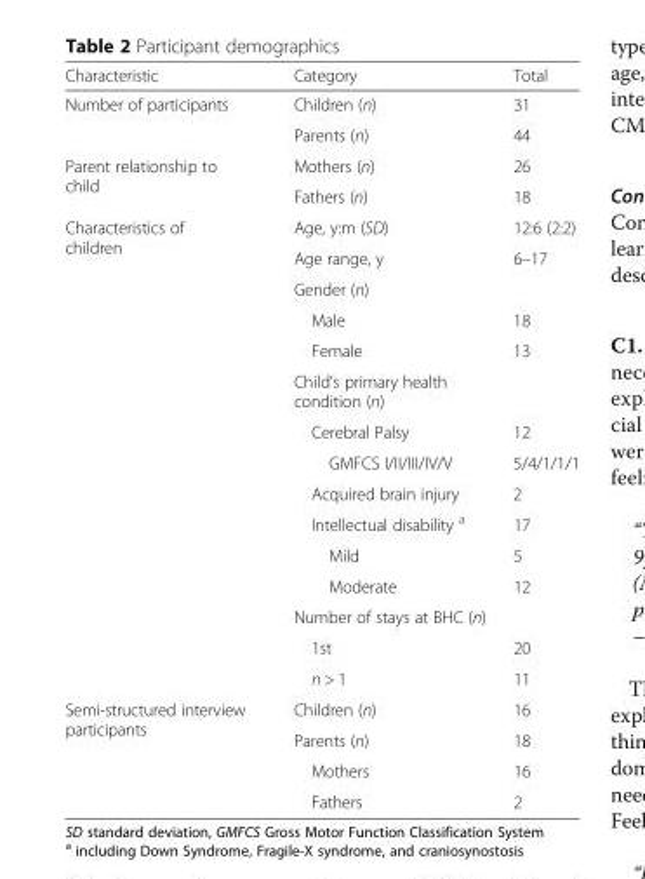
<table><thead><tr><td>Characteristic</td><td>Category</td><td>Total</td></tr></thead><tbody><tr><td rowspan="2">Number of participants</td><td>Children (n)</td><td>31</td></tr><tr><td>Parents (n)</td><td>44</td></tr><tr><td rowspan="2">Parent relationship to child</td><td>Mothers (n)</td><td>26</td></tr><tr><td>Fathers (n)</td><td>18</td></tr><tr><td rowspan="15">Characteristics of children</td><td>Age, y:m (SD)</td><td>12:6 (2:2)</td></tr><tr><td>Age range, y</td><td>6–17</td></tr><tr><td colspan="2">Gender (n)</td></tr><tr><td>Male</td><td>18</td></tr><tr><td>Female</td><td>13</td></tr><tr><td colspan="2">Child’s primary health condition (n)</td></tr><tr><td>Cerebral Palsy</td><td>12</td></tr><tr><td>GMFCS I/II/III/IV/V</td><td>5/4/1/1/1</td></tr><tr><td>Acquired brain injury</td><td>2</td></tr><tr><td>Intellectual disability <sup>a</sup></td><td>17</td></tr><tr><td>Mild</td><td>5</td></tr><tr><td>Moderate</td><td>12</td></tr><tr><td colspan="2">Number of stays at BHC (n)</td></tr><tr><td>1st</td><td>20</td></tr><tr><td>n &gt; 1</td><td>11</td></tr><tr><td rowspan="4">Semi-structured interview participants</td><td>Children (n)</td><td>16</td></tr><tr><td>Parents (n)</td><td>18</td></tr><tr><td>Mothers</td><td>16</td></tr><tr><td>Fathers</td><td>2</td></tr></tbody></table>